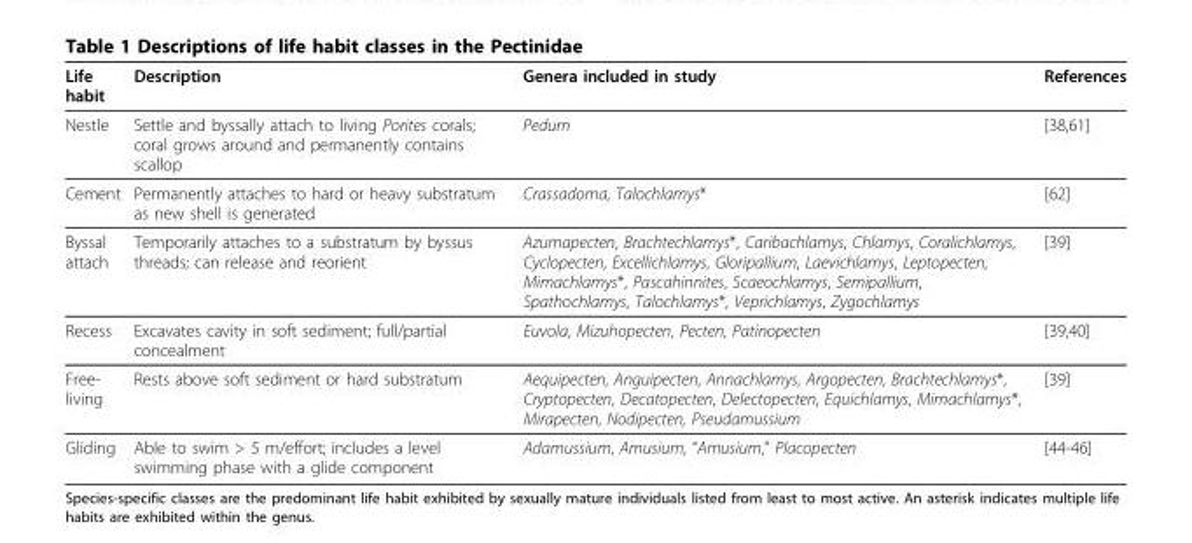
<table><thead><tr><td>Life habit</td><td>Description</td><td>Genera included in study</td><td>References</td></tr></thead><tbody><tr><td>Nestle</td><td>Settle and byssally attach to living Porites corals; coral grows around and permanently contains scallop</td><td>Pedum</td><td>[38,61]</td></tr><tr><td>Cement</td><td>Permanently attaches to hard or heavy substratum as new shell is generated</td><td>Crassadoma, Talochlamys*</td><td>[62]</td></tr><tr><td>Byssal attach</td><td>Temporarily attaches to a substratum by byssus threads; can release and reorient</td><td>Azumapecten, Brachtechlamys*, Caribachlamys, Chlamys, Coralichlamys, Cyclopecten, Excellichlamys, Gloripallium, Laevichlamys, Leptopecten, Mimachlamys*, Pascahinnites, Scaeochlamys, Semipallium, Spathochlamys, Talochlamys*, Veprichlamys, Zygochlamys</td><td>[39]</td></tr><tr><td>Recess</td><td>Excavates cavity in soft sediment; full/partial concealment</td><td>Euvola, Mizuhopecten, Pecten, Patinopecten</td><td>[39,40]</td></tr><tr><td>Free- living</td><td>Rests above soft sediment or hard substratum</td><td>Aequipecten, Anguipecten, Annachlamys, Argopecten, Brachtechlamys*, Cryptopecten, Decatopecten, Delectopecten, Equichlamys, Mimachlamys*, Mirapecten, Nodipecten, Pseudamussium</td><td>[39]</td></tr><tr><td>Gliding</td><td>Able to swim &gt; 5 m/effort; includes a level swimming phase with a glide component</td><td>Adamussium, Amusium, “Amusium,” Placopecten</td><td>[44-46]</td></tr></tbody></table>